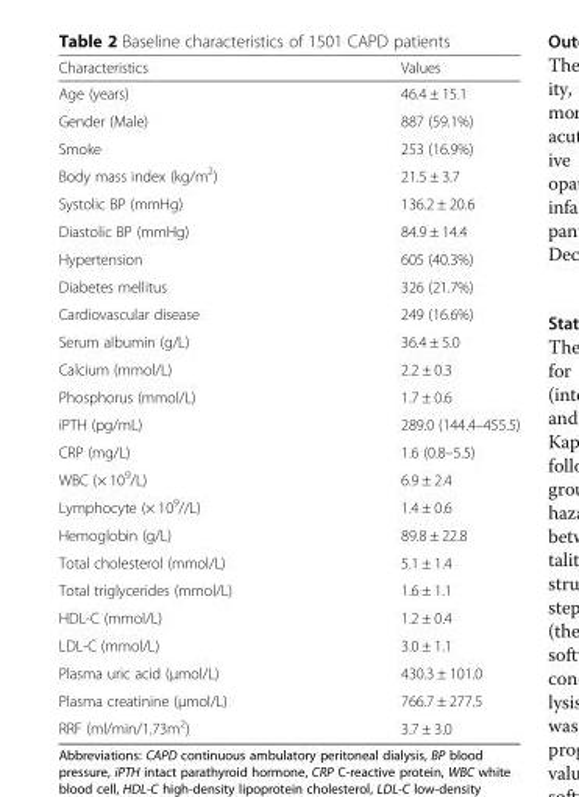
<table><thead><tr><td>Characteristics</td><td>Values</td></tr></thead><tbody><tr><td>Age (years)</td><td>46.4 ± 15.1</td></tr><tr><td>Gender (Male)</td><td>887 (59.1%)</td></tr><tr><td>Smoke</td><td>253 (16.9%)</td></tr><tr><td>Body mass index (kg/m<sup>2</sup>)</td><td>21.5 ± 3.7</td></tr><tr><td>Systolic BP (mmHg)</td><td>136.2 ± 20.6</td></tr><tr><td>Diastolic BP (mmHg)</td><td>84.9 ± 14.4</td></tr><tr><td>Hypertension</td><td>605 (40.3%)</td></tr><tr><td>Diabetes mellitus</td><td>326 (21.7%)</td></tr><tr><td>Cardiovascular disease</td><td>249 (16.6%)</td></tr><tr><td>Serum albumin (g/L)</td><td>36.4 ± 5.0</td></tr><tr><td>Calcium (mmol/L)</td><td>2.2 ± 0.3</td></tr><tr><td>Phosphorus (mmol/L)</td><td>1.7 ± 0.6</td></tr><tr><td>iPTH (pg/mL)</td><td>289.0 (144.4–455.5)</td></tr><tr><td>CRP (mg/L)</td><td>1.6 (0.8–5.5)</td></tr><tr><td>WBC (× 10<sup>9</sup>/L)</td><td>6.9 ± 2.4</td></tr><tr><td>Lymphocyte (× 10<sup>9</sup>//L)</td><td>1.4 ± 0.6</td></tr><tr><td>Hemoglobin (g/L)</td><td>89.8 ± 22.8</td></tr><tr><td>Total cholesterol (mmol/L)</td><td>5.1 ± 1.4</td></tr><tr><td>Total triglycerides (mmol/L)</td><td>1.6 ± 1.1</td></tr><tr><td>HDL-C (mmol/L)</td><td>1.2 ± 0.4</td></tr><tr><td>LDL-C (mmol/L)</td><td>3.0 ± 1.1</td></tr><tr><td>Plasma uric acid (μmol/L)</td><td>430.3 ± 101.0</td></tr><tr><td>Plasma creatinine (μmol/L)</td><td>766.7 ± 277.5</td></tr><tr><td>RRF (ml/min/1.73m<sup>2</sup>)</td><td>3.7 ± 3.0</td></tr></tbody></table>